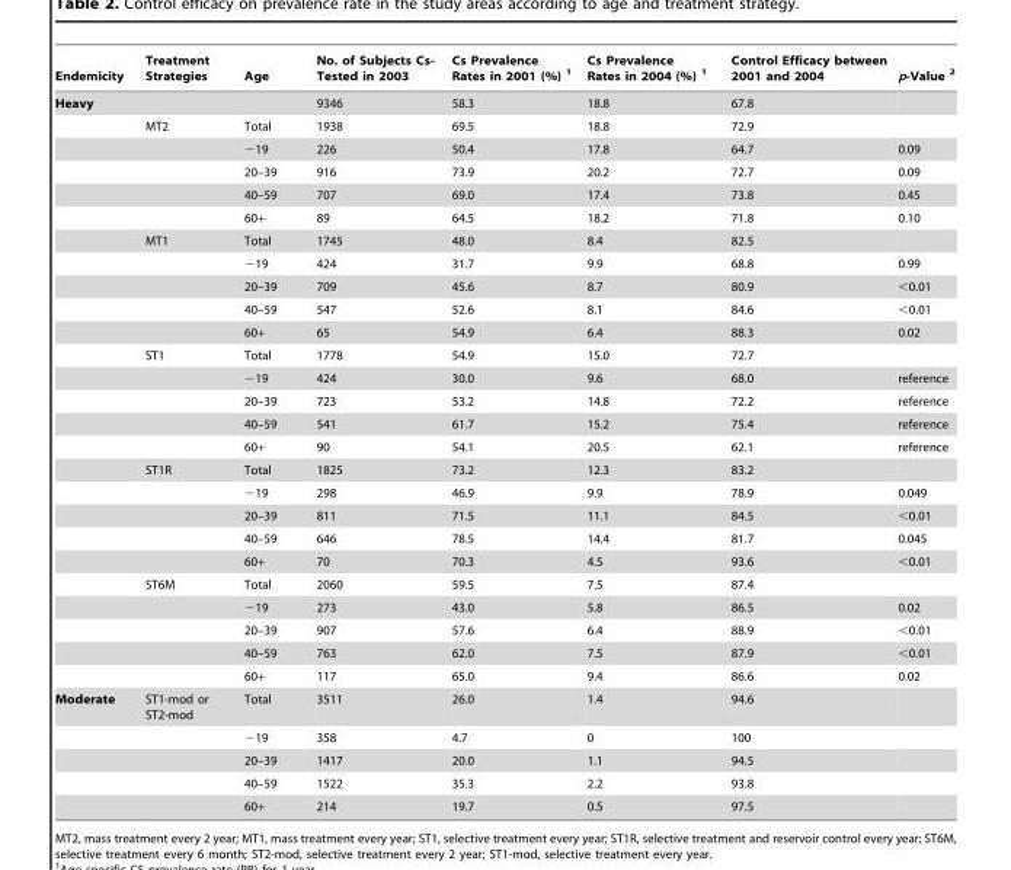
<table><thead><tr><td>Endemicity</td><td>Treatment Strategies</td><td>Age</td><td>No. of Subjects Cs- Tested in 2003</td><td>Cs Prevalence Rates in 2001 (%) 1</td><td>Cs Prevalence Rates in 2004 (%) 1</td><td>Control Efficacy between 2001 and 2004</td><td>p-Value 2</td></tr></thead><tbody><tr><td rowspan="26">Heavy</td><td></td><td></td><td>9346</td><td>58.3</td><td>18.8</td><td>67.8</td><td></td></tr><tr><td>MT2</td><td>Total</td><td>1938</td><td>69.5</td><td>18.8</td><td>72.9</td><td></td></tr><tr><td></td><td>−19</td><td>226</td><td>50.4</td><td>17.8</td><td>64.7</td><td>0.09</td></tr><tr><td></td><td>20–39</td><td>916</td><td>73.9</td><td>20.2</td><td>72.7</td><td>0.09</td></tr><tr><td></td><td>40–59</td><td>707</td><td>69.0</td><td>17.4</td><td>73.8</td><td>0.45</td></tr><tr><td></td><td>60+</td><td>89</td><td>64.5</td><td>18.2</td><td>71.8</td><td>0.10</td></tr><tr><td>MT1</td><td>Total</td><td>1745</td><td>48.0</td><td>8.4</td><td>82.5</td><td></td></tr><tr><td></td><td>−19</td><td>424</td><td>31.7</td><td>9.9</td><td>68.8</td><td>0.99</td></tr><tr><td></td><td>20–39</td><td>709</td><td>45.6</td><td>8.7</td><td>80.9</td><td>&lt;0.01</td></tr><tr><td></td><td>40–59</td><td>547</td><td>52.6</td><td>8.1</td><td>84.6</td><td>&lt;0.01</td></tr><tr><td></td><td>60+</td><td>65</td><td>54.9</td><td>6.4</td><td>88.3</td><td>0.02</td></tr><tr><td>ST1</td><td>Total</td><td>1778</td><td>54.9</td><td>15.0</td><td>72.7</td><td></td></tr><tr><td></td><td>−19</td><td>424</td><td>30.0</td><td>9.6</td><td>68.0</td><td>reference</td></tr><tr><td></td><td>20–39</td><td>723</td><td>53.2</td><td>14.8</td><td>72.2</td><td>reference</td></tr><tr><td></td><td>40–59</td><td>541</td><td>61.7</td><td>15.2</td><td>75.4</td><td>reference</td></tr><tr><td></td><td>60+</td><td>90</td><td>54.1</td><td>20.5</td><td>62.1</td><td>reference</td></tr><tr><td>ST1R</td><td>Total</td><td>1825</td><td>73.2</td><td>12.3</td><td>83.2</td><td></td></tr><tr><td></td><td>−19</td><td>298</td><td>46.9</td><td>9.9</td><td>78.9</td><td>0.049</td></tr><tr><td></td><td>20–39</td><td>811</td><td>71.5</td><td>11.1</td><td>84.5</td><td>&lt;0.01</td></tr><tr><td></td><td>40–59</td><td>646</td><td>78.5</td><td>14.4</td><td>81.7</td><td>0.045</td></tr><tr><td></td><td>60+</td><td>70</td><td>70.3</td><td>4.5</td><td>93.6</td><td>&lt;0.01</td></tr><tr><td>ST6M</td><td>Total</td><td>2060</td><td>59.5</td><td>7.5</td><td>87.4</td><td></td></tr><tr><td></td><td>−19</td><td>273</td><td>43.0</td><td>5.8</td><td>86.5</td><td>0.02</td></tr><tr><td></td><td>20–39</td><td>907</td><td>57.6</td><td>6.4</td><td>88.9</td><td>&lt;0.01</td></tr><tr><td></td><td>40–59</td><td>763</td><td>62.0</td><td>7.5</td><td>87.9</td><td>&lt;0.01</td></tr><tr><td></td><td>60+</td><td>117</td><td>65.0</td><td>9.4</td><td>86.6</td><td>0.02</td></tr><tr><td rowspan="5">Moderate</td><td>ST1-mod or ST2-mod</td><td>Total</td><td>3511</td><td>26.0</td><td>1.4</td><td>94.6</td><td></td></tr><tr><td></td><td>−19</td><td>358</td><td>4.7</td><td>0</td><td>100</td><td></td></tr><tr><td></td><td>20–39</td><td>1417</td><td>20.0</td><td>1.1</td><td>94.5</td><td></td></tr><tr><td></td><td>40–59</td><td>1522</td><td>35.3</td><td>2.2</td><td>93.8</td><td></td></tr><tr><td></td><td>60+</td><td>214</td><td>19.7</td><td>0.5</td><td>97.5</td><td></td></tr></tbody></table>